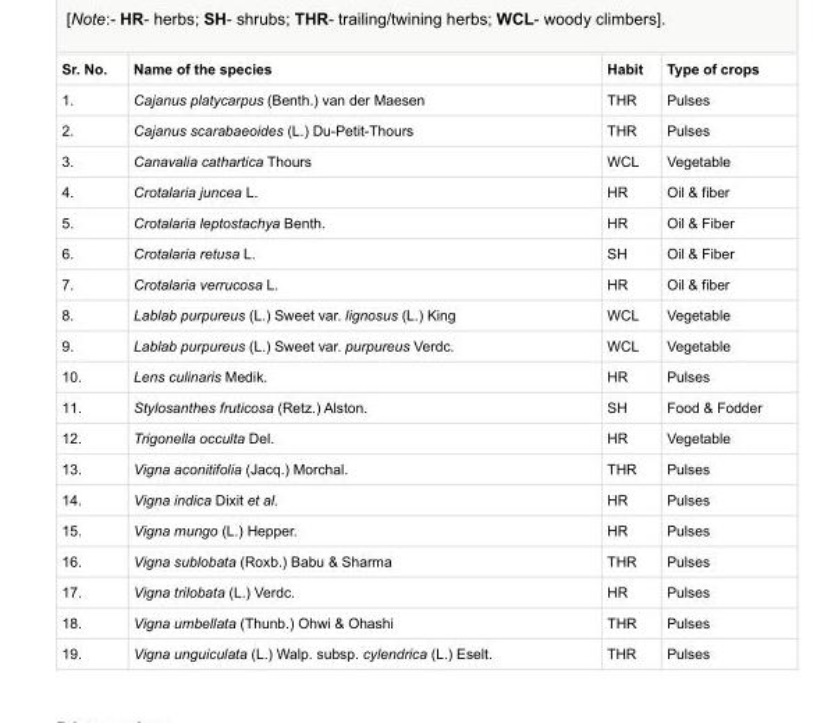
<table><tbody><tr><td>Sr. No.</td><td>Name of the species</td><td>Habit</td><td>Type of crops</td></tr><tr><td>1.</td><td>Cajanus platycarpus (Benth.) van der Maesen</td><td>THR</td><td>Pulses</td></tr><tr><td>2.</td><td>Cajanus scarabaeoides (L.) Du-Petit-Thours</td><td>THR</td><td>Pulses</td></tr><tr><td>3.</td><td>Canavalia cathartica Thours</td><td>WCL</td><td>Vegetable</td></tr><tr><td>4.</td><td>Crotalaria juncea L.</td><td>HR</td><td>Oil &amp; fiber</td></tr><tr><td>5.</td><td>Crotalaria leptostachya Benth.</td><td>HR</td><td>Oil &amp; Fiber</td></tr><tr><td>6.</td><td>Crotalaria retusa L.</td><td>SH</td><td>Oil &amp; Fiber</td></tr><tr><td>7.</td><td>Crotalaria verrucosa L.</td><td>HR</td><td>Oil &amp; fiber</td></tr><tr><td>8.</td><td>Lablab purpureus (L.) Sweet var. lignosus (L.) King</td><td>WCL</td><td>Vegetable</td></tr><tr><td>9.</td><td>Lablab purpureus (L.) Sweet var. purpureus Verdc.</td><td>WCL</td><td>Vegetable</td></tr><tr><td>10.</td><td>Lens culinaris Medik.</td><td>HR</td><td>Pulses</td></tr><tr><td>11.</td><td>Stylosanthes fruticosa (Retz.) Alston.</td><td>SH</td><td>Food &amp; Fodder</td></tr><tr><td>12.</td><td>Trigonella occulta Del.</td><td>HR</td><td>Vegetable</td></tr><tr><td>13.</td><td>Vigna aconitifolia (Jacq.) Morchal.</td><td>THR</td><td>Pulses</td></tr><tr><td>14.</td><td>Vigna indica Dixit et al.</td><td>HR</td><td>Pulses</td></tr><tr><td>15.</td><td>Vigna mungo (L.) Hepper.</td><td>HR</td><td>Pulses</td></tr><tr><td>16.</td><td>Vigna sublobata (Roxb.) Babu &amp; Sharma</td><td>THR</td><td>Pulses</td></tr><tr><td>17.</td><td>Vigna trilobata (L.) Verdc.</td><td>HR</td><td>Pulses</td></tr><tr><td>18.</td><td>Vigna umbellata (Thunb.) Ohwi &amp; Ohashi</td><td>THR</td><td>Pulses</td></tr><tr><td>19.</td><td>Vigna unguiculata (L.) Walp. subsp. cylendrica (L.) Eselt.</td><td>THR</td><td>Pulses</td></tr></tbody></table>